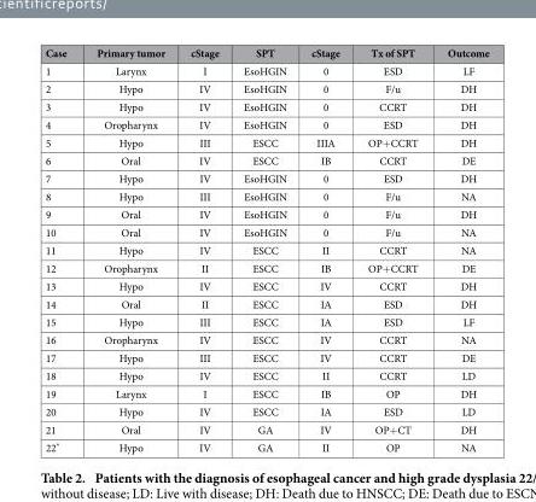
<table><thead><tr><td>Case</td><td>Primary tumor</td><td>cStage</td><td>SPT</td><td>cStage</td><td>Tx of SPT</td><td>Outcome</td></tr></thead><tbody><tr><td>1</td><td>Larynx</td><td>I</td><td>EsoHGIN</td><td>0</td><td>ESD</td><td>LF</td></tr><tr><td>2</td><td>Hypo</td><td>IV</td><td>EsoHGIN</td><td>0</td><td>F/u</td><td>DH</td></tr><tr><td>3</td><td>Hypo</td><td>IV</td><td>EsoHGIN</td><td>0</td><td>CCRT</td><td>DH</td></tr><tr><td>4</td><td>Oropharynx</td><td>IV</td><td>EsoHGIN</td><td>0</td><td>ESD</td><td>DH</td></tr><tr><td>5</td><td>Hypo</td><td>III</td><td>ESCC</td><td>IIIA</td><td>OP+ CCRT</td><td>DH</td></tr><tr><td>6</td><td>Oral</td><td>IV</td><td>ESCC</td><td>IB</td><td>CCRT</td><td>DE</td></tr><tr><td>7</td><td>Hypo</td><td>IV</td><td>EsoHGIN</td><td>0</td><td>ESD</td><td>DH</td></tr><tr><td>8</td><td>Hypo</td><td>III</td><td>EsoHGIN</td><td>0</td><td>F/u</td><td>NA</td></tr><tr><td>9</td><td>Oral</td><td>IV</td><td>EsoHGIN</td><td>0</td><td>F/u</td><td>DH</td></tr><tr><td>10</td><td>Oral</td><td>IV</td><td>EsoHGIN</td><td>0</td><td>F/u</td><td>NA</td></tr><tr><td>11</td><td>Hypo</td><td>IV</td><td>ESCC</td><td>II</td><td>CCRT</td><td>NA</td></tr><tr><td>12</td><td>Oropharynx</td><td>II</td><td>ESCC</td><td>IB</td><td>OP+ CCRT</td><td>DE</td></tr><tr><td>13</td><td>Hypo</td><td>IV</td><td>ESCC</td><td>IV</td><td>CCRT</td><td>DH</td></tr><tr><td>14</td><td>Oral</td><td>II</td><td>ESCC</td><td>IA</td><td>ESD</td><td>DH</td></tr><tr><td>15</td><td>Hypo</td><td>III</td><td>ESCC</td><td>IA</td><td>ESD</td><td>LF</td></tr><tr><td>16</td><td>Oropharynx</td><td>IV</td><td>ESCC</td><td>IV</td><td>CCRT</td><td>NA</td></tr><tr><td>17</td><td>Hypo</td><td>III</td><td>ESCC</td><td>IV</td><td>CCRT</td><td>DE</td></tr><tr><td>18</td><td>Hypo</td><td>IV</td><td>ESCC</td><td>II</td><td>CCRT</td><td>LD</td></tr><tr><td>19</td><td>Larynx</td><td>I</td><td>ESCC</td><td>IB</td><td>OP</td><td>DH</td></tr><tr><td>20</td><td>Hypo</td><td>IV</td><td>ESCC</td><td>IA</td><td>ESD</td><td>LD</td></tr><tr><td>21</td><td>Oral</td><td>IV</td><td>GA</td><td>IV</td><td>OP+ CT</td><td>DH</td></tr><tr><td>22*</td><td>Hypo</td><td>IV</td><td>GA</td><td>II</td><td>OP</td><td>NA</td></tr></tbody></table>